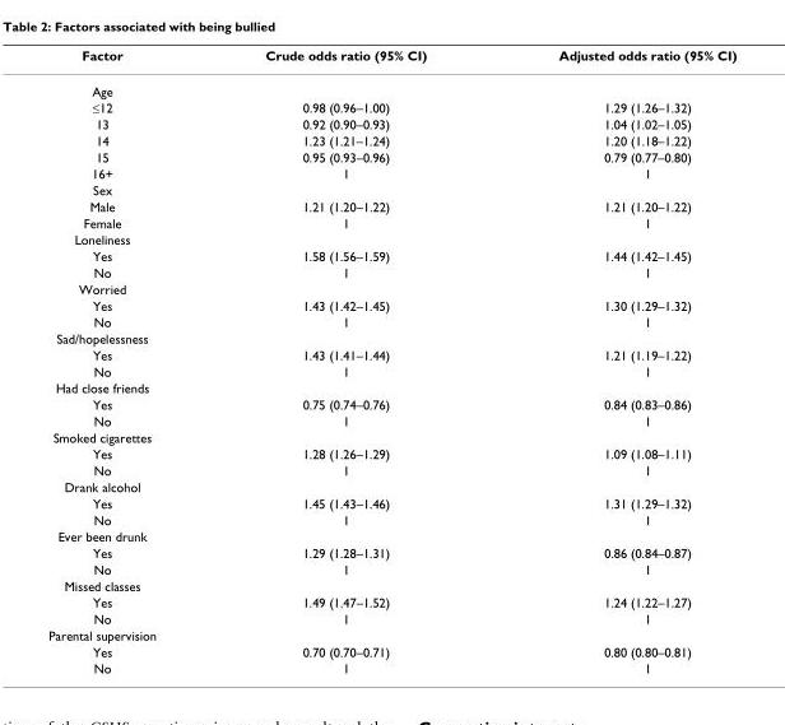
<table><thead><tr><td>Factor</td><td>Crude odds ratio (95% CI)</td><td>Adjusted odds ratio (95% CI)</td></tr></thead><tbody><tr><td colspan="3">Age</td></tr><tr><td>≤12</td><td>0.98 (0.96–1.00)</td><td>1.29 (1.26–1.32)</td></tr><tr><td>13</td><td>0.92 (0.90–0.93)</td><td>1.04 (1.02–1.05)</td></tr><tr><td>14</td><td>1.23 (1.21–1.24)</td><td>1.20 (1.18–1.22)</td></tr><tr><td>15</td><td>0.95 (0.93–0.96)</td><td>0.79 (0.77–0.80)</td></tr><tr><td>16+</td><td>1</td><td>1</td></tr><tr><td colspan="3">Sex</td></tr><tr><td>Male</td><td>1.21 (1.20–1.22)</td><td>1.21 (1.20–1.22)</td></tr><tr><td>Female</td><td>1</td><td>1</td></tr><tr><td colspan="3">Loneliness</td></tr><tr><td>Yes</td><td>1.58 (1.56–1.59)</td><td>1.44 (1.42–1.45)</td></tr><tr><td>No</td><td>1</td><td>1</td></tr><tr><td colspan="3">Worried</td></tr><tr><td>Yes</td><td>1.43 (1.42–1.45)</td><td>1.30 (1.29–1.32)</td></tr><tr><td>No</td><td>1</td><td>1</td></tr><tr><td colspan="3">Sad/hopelessness</td></tr><tr><td>Yes</td><td>1.43 (1.41–1.44)</td><td>1.21 (1.19–1.22)</td></tr><tr><td>No</td><td>1</td><td>1</td></tr><tr><td colspan="3">Had close friends</td></tr><tr><td>Yes</td><td>0.75 (0.74–0.76)</td><td>0.84 (0.83–0.86)</td></tr><tr><td>No</td><td>1</td><td>1</td></tr><tr><td colspan="3">Smoked cigarettes</td></tr><tr><td>Yes</td><td>1.28 (1.26–1.29)</td><td>1.09 (1.08–1.11)</td></tr><tr><td>No</td><td>1</td><td>1</td></tr><tr><td colspan="3">Drank alcohol</td></tr><tr><td>Yes</td><td>1.45 (1.43–1.46)</td><td>1.31 (1.29–1.32)</td></tr><tr><td>No</td><td>1</td><td>1</td></tr><tr><td colspan="3">Ever been drunk</td></tr><tr><td>Yes</td><td>1.29 (1.28–1.31)</td><td>0.86 (0.84–0.87)</td></tr><tr><td>No</td><td>1</td><td>1</td></tr><tr><td colspan="3">Missed classes</td></tr><tr><td>Yes</td><td>1.49 (1.47–1.52)</td><td>1.24 (1.22–1.27)</td></tr><tr><td>No</td><td>1</td><td>1</td></tr><tr><td colspan="3">Parental supervision</td></tr><tr><td>Yes</td><td>0.70 (0.70–0.71)</td><td>0.80 (0.80–0.81)</td></tr><tr><td>No</td><td>1</td><td>1</td></tr></tbody></table>